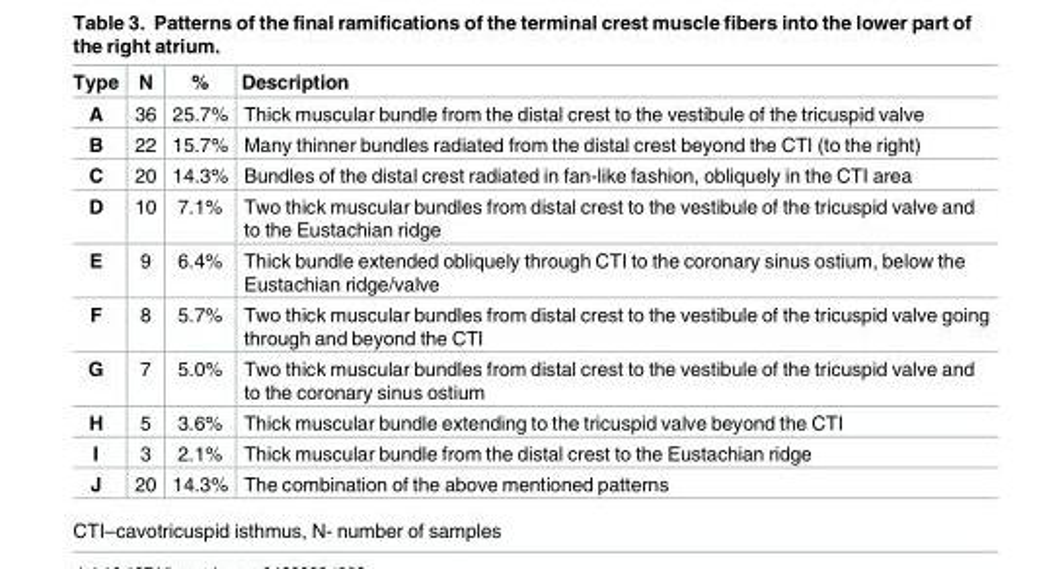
<table><thead><tr><td>Type</td><td>N</td><td>%</td><td>Description</td></tr></thead><tbody><tr><td>A</td><td>36</td><td>25.7%</td><td>Thick muscular bundle from the distal crest to the vestibule of the tricuspid valve</td></tr><tr><td>B</td><td>22</td><td>15.7%</td><td>Many thinner bundles radiated from the distal crest beyond the CTI (to the right)</td></tr><tr><td>C</td><td>20</td><td>14.3%</td><td>Bundles of the distal crest radiated in fan-like fashion, obliquely in the CTI area</td></tr><tr><td>D</td><td>10</td><td>7.1%</td><td>Two thick muscular bundles from distal crest to the vestibule of the tricuspid valve and to the Eustachian ridge</td></tr><tr><td>E</td><td>9</td><td>6.4%</td><td>Thick bundle extended obliquely through CTI to the coronary sinus ostium, below the Eustachian ridge/valve</td></tr><tr><td>F</td><td>8</td><td>5.7%</td><td>Two thick muscular bundles from distal crest to the vestibule of the tricuspid valve going through and beyond the CTI</td></tr><tr><td>G</td><td>7</td><td>5.0%</td><td>Two thick muscular bundles from distal crest to the vestibule of the tricuspid valve and to the coronary sinus ostium</td></tr><tr><td>H</td><td>5</td><td>3.6%</td><td>Thick muscular bundle extending to the tricuspid valve beyond the CTI</td></tr><tr><td>I</td><td>3</td><td>2.1%</td><td>Thick muscular bundle from the distal crest to the Eustachian ridge</td></tr><tr><td>J</td><td>20</td><td>14.3%</td><td>The combination of the above mentioned patterns</td></tr></tbody></table>